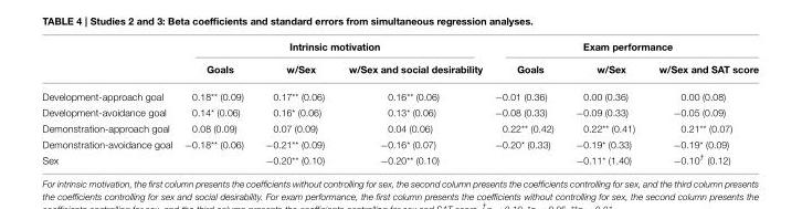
<table><thead><tr><td rowspan="2"></td><td colspan="3">Intrinsic motivation</td><td colspan="3">Exam performance</td></tr><tr><td>Goals</td><td>w/Sex</td><td>w/Sex and social desirability</td><td>Goals</td><td>w/Sex</td><td>w/Sex and SAT score</td></tr></thead><tbody><tr><td>Development-approach goal</td><td>0.18** (0.09)</td><td>0.17** (0.06)</td><td>0.16** (0.06)</td><td>−0.01 (0.36)</td><td>0.00 (0.36)</td><td>0.00 (0.08)</td></tr><tr><td>Development-avoidance goal</td><td>0.14* (0.06)</td><td>0.16* (0.06)</td><td>0.13* (0.06)</td><td>−0.08 (0.33)</td><td>−0.09 (0.33)</td><td>−0.05 (0.09)</td></tr><tr><td>Demonstration-approach goal</td><td>0.08 (0.09)</td><td>0.07 (0.09)</td><td>0.04 (0.06)</td><td>0.22** (0.42)</td><td>0.22** (0.41)</td><td>0.21** (0.07)</td></tr><tr><td>Demonstration-avoidance goal</td><td>−0.18** (0.06)</td><td>−0.21** (0.09)</td><td>−0.16* (0.07)</td><td>−0.20* (0.33)</td><td>−0.19* (0.33)</td><td>−0.19* (0.09)</td></tr><tr><td>Sex</td><td></td><td>−0.20** (0.10)</td><td>−0.20** (0.10)</td><td></td><td>−0.11* (1.40)</td><td>−0.10<sup>†</sup> (0.12)</td></tr></tbody></table>